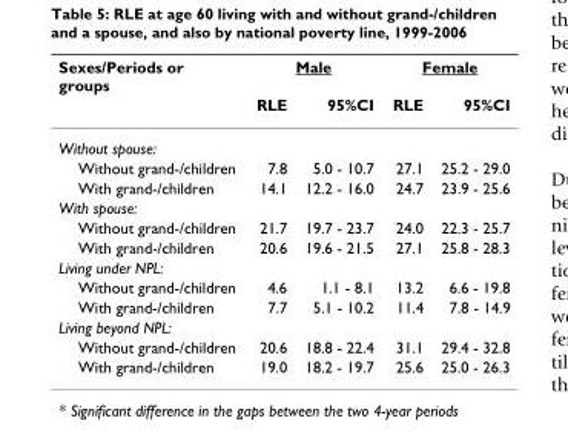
<table><thead><tr><td rowspan="2">Sexes/Periods or groups</td><td colspan="2">Male</td><td colspan="2">Female</td></tr><tr><td>RLE</td><td>95%CI</td><td>RLE</td><td>95%CI</td></tr></thead><tbody><tr><td colspan="5">Without spouse:</td></tr><tr><td>Without grand-/children</td><td>7.8</td><td>5.0 - 10.7</td><td>27.1</td><td>25.2 - 29.0</td></tr><tr><td>With grand-/children</td><td>14.1</td><td>12.2 - 16.0</td><td>24.7</td><td>23.9 - 25.6</td></tr><tr><td colspan="5">With spouse:</td></tr><tr><td>Without grand-/children</td><td>21.7</td><td>19.7 - 23.7</td><td>24.0</td><td>22.3 - 25.7</td></tr><tr><td>With grand-/children</td><td>20.6</td><td>19.6 - 21.5</td><td>27.1</td><td>25.8 - 28.3</td></tr><tr><td colspan="5">Living under NPL:</td></tr><tr><td>Without grand-/children</td><td>4.6</td><td>1.1 - 8.1</td><td>13.2</td><td>6.6 - 19.8</td></tr><tr><td>With grand-/children</td><td>7.7</td><td>5.1 - 10.2</td><td>11.4</td><td>7.8 - 14.9</td></tr><tr><td colspan="5">Living beyond NPL:</td></tr><tr><td>Without grand-/children</td><td>20.6</td><td>18.8 - 22.4</td><td>31.1</td><td>29.4 - 32.8</td></tr><tr><td>With grand-/children</td><td>19.0</td><td>18.2 - 19.7</td><td>25.6</td><td>25.0 - 26.3</td></tr></tbody></table>